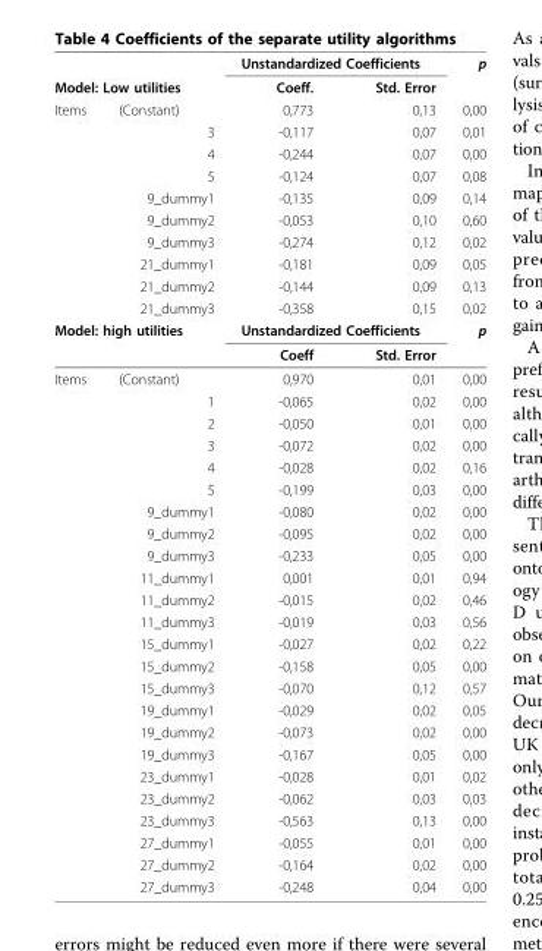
<table><thead><tr><td></td><td></td><td colspan="2">Unstandardized Coefficients</td><td rowspan="14">p 0,00 0,01 0,00 0,08 0,14 0,60 0,02 0,05 0,13 0,02 p</td></tr><tr><td colspan="2">Model: Low utilities</td><td rowspan="11">Coeff. 0,773 -0,117 -0,244 -0,124 -0,135 -0,053 -0,274 -0,181 -0,144 -0,358</td><td rowspan="11">Std. Error 0,13 0,07 0,07 0,07 0,09 0,10 0,12 0,09 0,09 0,15</td></tr><tr><td rowspan="10">Items</td><td rowspan="10">(Constant) 3 4 5 9_dummy1 9_dummy2 9_dummy3 21_dummy1 21_dummy2 21_dummy3</td></tr><tr></tr><tr></tr><tr></tr><tr></tr><tr></tr><tr></tr><tr></tr><tr></tr><tr></tr><tr><td colspan="2">Model: high utilities</td><td colspan="2">Unstandardized Coefficients</td></tr><tr><td></td><td></td><td>Coeff</td><td>Std. Error</td></tr></thead><tbody><tr><td rowspan="24">Items</td><td>(Constant)</td><td>0,970</td><td>0,01</td><td>0,00</td></tr><tr><td>1</td><td>-0,065</td><td>0,02</td><td>0,00</td></tr><tr><td>2</td><td>-0,050</td><td>0,01</td><td>0,00</td></tr><tr><td>3</td><td>-0,072</td><td>0,02</td><td>0,00</td></tr><tr><td>4</td><td>-0,028</td><td>0,02</td><td>0,16</td></tr><tr><td>5</td><td>-0,199</td><td>0,03</td><td>0,00</td></tr><tr><td>9_dummy1</td><td>-0,080</td><td>0,02</td><td>0,00</td></tr><tr><td>9_dummy2</td><td>-0,095</td><td>0,02</td><td>0,00</td></tr><tr><td>9_dummy3</td><td>-0,233</td><td>0,05</td><td>0,00</td></tr><tr><td>11_dummy1</td><td>0,001</td><td>0,01</td><td>0,94</td></tr><tr><td>11_dummy2</td><td>-0,015</td><td>0,02</td><td>0,46</td></tr><tr><td>11_dummy3</td><td>-0,019</td><td>0,03</td><td>0,56</td></tr><tr><td>15_dummy1</td><td>-0,027</td><td>0,02</td><td>0,22</td></tr><tr><td>15_dummy2</td><td>-0,158</td><td>0,05</td><td>0,00</td></tr><tr><td>15_dummy3</td><td>-0,070</td><td>0,12</td><td>0,57</td></tr><tr><td>19_dummy1</td><td>-0,029</td><td>0,02</td><td>0,05</td></tr><tr><td>19_dummy2</td><td>-0,073</td><td>0,02</td><td>0,00</td></tr><tr><td>19_dummy3</td><td>-0,167</td><td>0,05</td><td>0,00</td></tr><tr><td>23_dummy1</td><td>-0,028</td><td>0,01</td><td>0,02</td></tr><tr><td>23_dummy2</td><td>-0,062</td><td>0,03</td><td>0,03</td></tr><tr><td>23_dummy3</td><td>-0,563</td><td>0,13</td><td>0,00</td></tr><tr><td>27_dummy1</td><td>-0,055</td><td>0,01</td><td>0,00</td></tr><tr><td>27_dummy2</td><td>-0,164</td><td>0,02</td><td>0,00</td></tr><tr><td>27_dummy3</td><td>-0,248</td><td>0,04</td><td>0,00</td></tr></tbody></table>